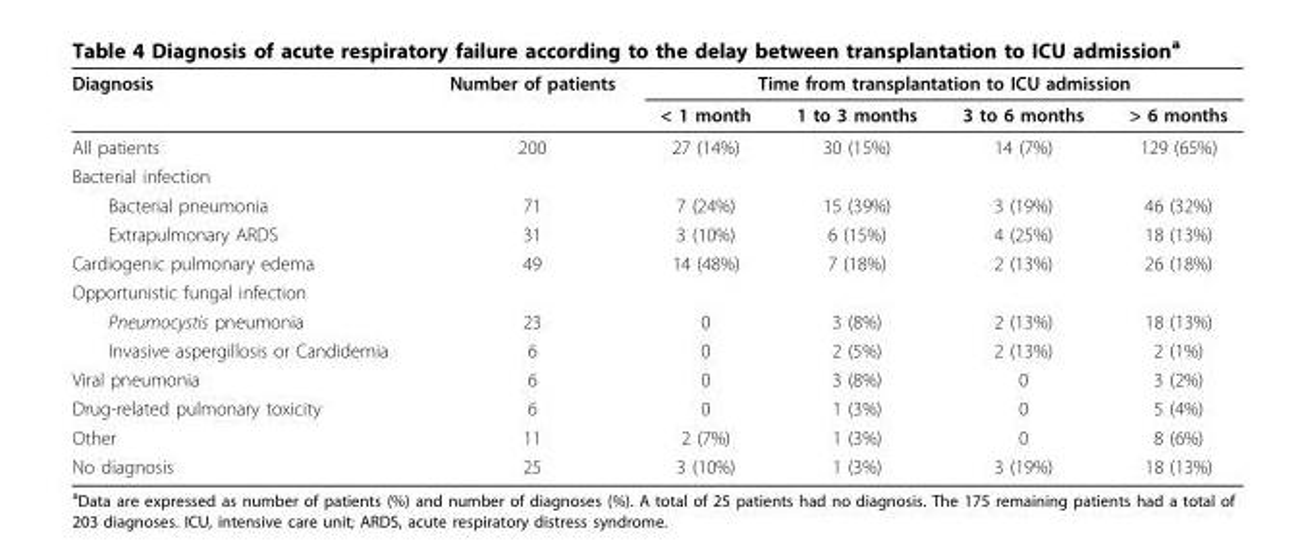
<table><thead><tr><td rowspan="2">Diagnosis</td><td rowspan="2">Number of patients</td><td colspan="4">Time from transplantation to ICU admission</td></tr><tr><td>&lt; 1 month</td><td>1 to 3 months</td><td>3 to 6 months</td><td>&gt; 6 months</td></tr></thead><tbody><tr><td>All patients</td><td>200</td><td>27 (14%)</td><td>30 (15%)</td><td>14 (7%)</td><td>129 (65%)</td></tr><tr><td colspan="6">Bacterial infection</td></tr><tr><td>Bacterial pneumonia</td><td>71</td><td>7 (24%)</td><td>15 (39%)</td><td>3 (19%)</td><td>46 (32%)</td></tr><tr><td>Extrapulmonary ARDS</td><td>31</td><td>3 (10%)</td><td>6 (15%)</td><td>4 (25%)</td><td>18 (13%)</td></tr><tr><td>Cardiogenic pulmonary edema</td><td>49</td><td>14 (48%)</td><td>7 (18%)</td><td>2 (13%)</td><td>26 (18%)</td></tr><tr><td colspan="6">Opportunistic fungal infection</td></tr><tr><td>Pneumocystis pneumonia</td><td>23</td><td>0</td><td>3 (8%)</td><td>2 (13%)</td><td>18 (13%)</td></tr><tr><td>Invasive aspergillosis or Candidemia</td><td>6</td><td>0</td><td>2 (5%)</td><td>2 (13%)</td><td>2 (1%)</td></tr><tr><td>Viral pneumonia</td><td>6</td><td>0</td><td>3 (8%)</td><td>0</td><td>3 (2%)</td></tr><tr><td>Drug-related pulmonary toxicity</td><td>6</td><td>0</td><td>1 (3%)</td><td>0</td><td>5 (4%)</td></tr><tr><td>Other</td><td>11</td><td>2 (7%)</td><td>1 (3%)</td><td>0</td><td>8 (6%)</td></tr><tr><td>No diagnosis</td><td>25</td><td>3 (10%)</td><td>1 (3%)</td><td>3 (19%)</td><td>18 (13%)</td></tr></tbody></table>